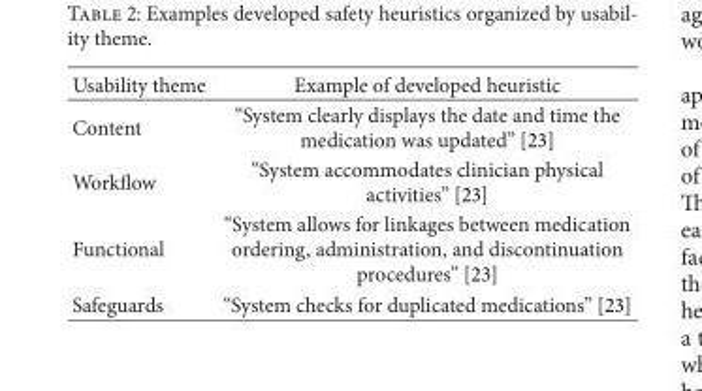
<table><thead><tr><td>Usability theme</td><td>Example of developed heuristic</td></tr></thead><tbody><tr><td>Content</td><td>“System clearly displays the date and time the medication was updated” [23]</td></tr><tr><td>Workflow</td><td>“System accommodates clinician physical activities” [23]</td></tr><tr><td>Functional</td><td>“System allows for linkages between medication ordering, administration, and discontinuation procedures” [23]</td></tr><tr><td>Safeguards</td><td>“System checks for duplicated medications” [23]</td></tr></tbody></table>